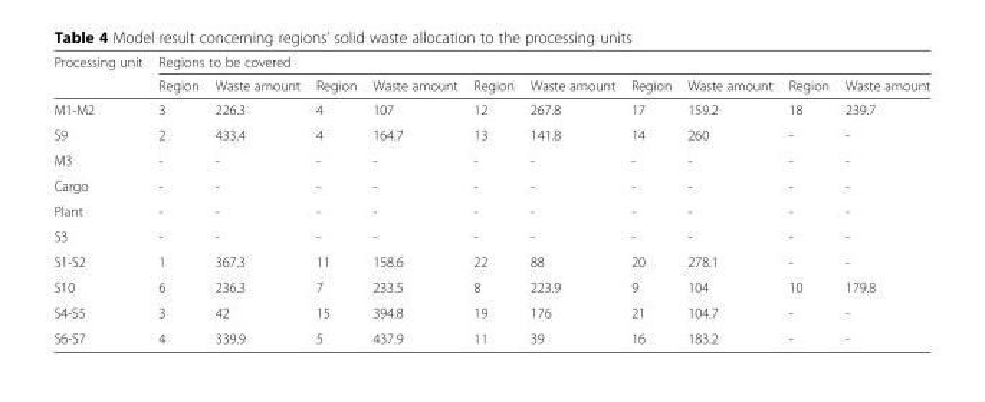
<table><thead><tr><td rowspan="2">Processing unit</td><td colspan="10">Regions to be covered</td></tr><tr><td>Region</td><td>Waste amount</td><td>Region</td><td>Waste amount</td><td>Region</td><td>Waste amount</td><td>Region</td><td>Waste amount</td><td>Region</td><td>Waste amount</td></tr></thead><tbody><tr><td>M1-M2</td><td>3</td><td>226.3</td><td>4</td><td>107</td><td>12</td><td>267.8</td><td>17</td><td>159.2</td><td>18</td><td>239.7</td></tr><tr><td>S9</td><td>2</td><td>433.4</td><td>4</td><td>164.7</td><td>13</td><td>141.8</td><td>14</td><td>260</td><td>-</td><td>-</td></tr><tr><td>M3</td><td>-</td><td>-</td><td>-</td><td>-</td><td>-</td><td>-</td><td>-</td><td>-</td><td>-</td><td>-</td></tr><tr><td>Cargo</td><td>-</td><td>-</td><td>-</td><td>-</td><td>-</td><td>-</td><td>-</td><td>-</td><td>-</td><td>-</td></tr><tr><td>Plant</td><td>-</td><td>-</td><td>-</td><td>-</td><td>-</td><td>-</td><td>-</td><td>-</td><td>-</td><td>-</td></tr><tr><td>S3</td><td>-</td><td>-</td><td>-</td><td>-</td><td>-</td><td>-</td><td>-</td><td>-</td><td>-</td><td>-</td></tr><tr><td>S1-S2</td><td>1</td><td>367.3</td><td>11</td><td>158.6</td><td>22</td><td>88</td><td>20</td><td>278.1</td><td>-</td><td>-</td></tr><tr><td>S10</td><td>6</td><td>236.3</td><td>7</td><td>233.5</td><td>8</td><td>223.9</td><td>9</td><td>104</td><td>10</td><td>179.8</td></tr><tr><td>S4-S5</td><td>3</td><td>42</td><td>15</td><td>394.8</td><td>19</td><td>176</td><td>21</td><td>104.7</td><td>-</td><td>-</td></tr><tr><td>S6-S7</td><td>4</td><td>339.9</td><td>5</td><td>437.9</td><td>11</td><td>39</td><td>16</td><td>183.2</td><td>-</td><td>-</td></tr></tbody></table>